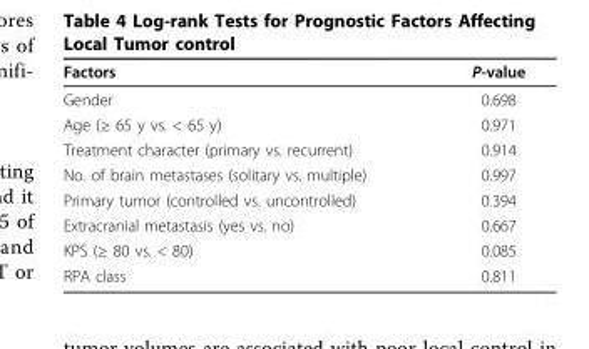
<table><thead><tr><td>Factors</td><td>P-value</td></tr></thead><tbody><tr><td>Gender</td><td>0.698</td></tr><tr><td>Age (≥ 65 y vs. &lt; 65 y)</td><td>0.971</td></tr><tr><td>Treatment character (primary vs. recurrent)</td><td>0.914</td></tr><tr><td>No. of brain metastases (solitary vs. multiple)</td><td>0.997</td></tr><tr><td>Primary tumor (controlled vs. uncontrolled)</td><td>0.394</td></tr><tr><td>Extracranial metastasis (yes vs. no)</td><td>0.667</td></tr><tr><td>KPS (≥ 80 vs. &lt; 80)</td><td>0.085</td></tr><tr><td>RPA class</td><td>0.811</td></tr></tbody></table>